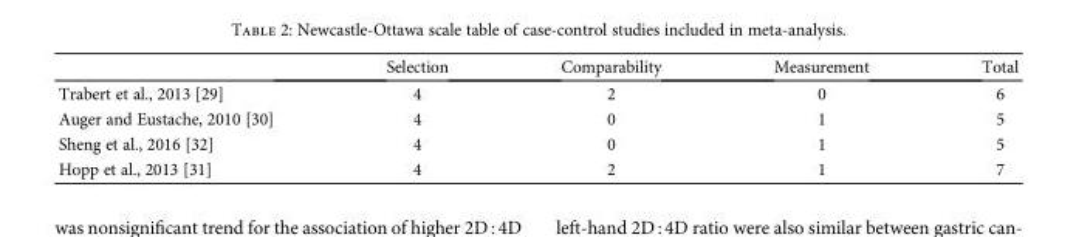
<table><thead><tr><td></td><td>Selection</td><td>Comparability</td><td>Measurement</td><td>Total</td></tr></thead><tbody><tr><td>Trabert et al., 2013 [29]</td><td>4</td><td>2</td><td>0</td><td>6</td></tr><tr><td>Auger and Eustache, 2010 [30]</td><td>4</td><td>0</td><td>1</td><td>5</td></tr><tr><td>Sheng et al., 2016 [32]</td><td>4</td><td>0</td><td>1</td><td>5</td></tr><tr><td>Hopp et al., 2013 [31]</td><td>4</td><td>2</td><td>1</td><td>7</td></tr></tbody></table>